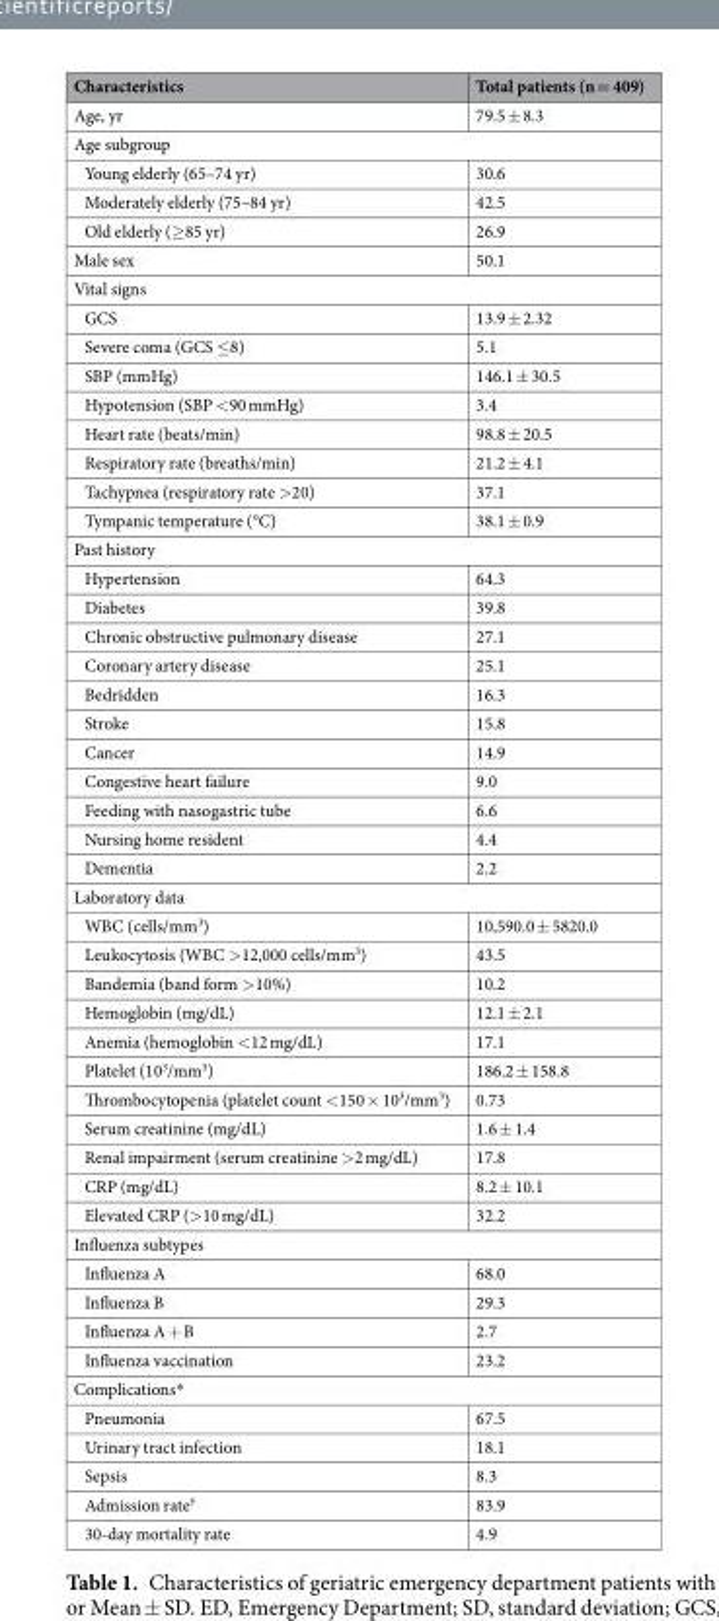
<table><thead><tr><td>Characteristics</td><td>Total patients (n = 409)</td></tr></thead><tbody><tr><td>Age, yr</td><td>79.5 ± 8.3</td></tr><tr><td colspan="2">Age subgroup</td></tr><tr><td>Young elderly (65–74 yr)</td><td>30.6</td></tr><tr><td>Moderately elderly (75–84 yr)</td><td>42.5</td></tr><tr><td>Old elderly (≥85 yr)</td><td>26.9</td></tr><tr><td>Male sex</td><td>50.1</td></tr><tr><td colspan="2">Vital signs</td></tr><tr><td>GCS</td><td>13.9 ± 2.32</td></tr><tr><td>Severe coma (GCS ≤8)</td><td>5.1</td></tr><tr><td>SBP (mmHg)</td><td>146.1 ± 30.5</td></tr><tr><td>Hypotension (SBP &lt;90 mmHg)</td><td>3.4</td></tr><tr><td>Heart rate (beats/min)</td><td>98.8 ± 20.5</td></tr><tr><td>Respiratory rate (breaths/min)</td><td>21.2 ± 4.1</td></tr><tr><td>Tachypnea (respiratory rate &gt;20)</td><td>37.1</td></tr><tr><td>Tympanic temperature (°C)</td><td>38.1 ± 0.9</td></tr><tr><td colspan="2">Past history</td></tr><tr><td>Hypertension</td><td>64.3</td></tr><tr><td>Diabetes</td><td>39.8</td></tr><tr><td>Chronic obstructive pulmonary disease</td><td>27.1</td></tr><tr><td>Coronary artery disease</td><td>25.1</td></tr><tr><td>Bedridden</td><td>16.3</td></tr><tr><td>Stroke</td><td>15.8</td></tr><tr><td>Cancer</td><td>14.9</td></tr><tr><td>Congestive heart failure</td><td>9.0</td></tr><tr><td>Feeding with nasogastric tube</td><td>6.6</td></tr><tr><td>Nursing home resident</td><td>4.4</td></tr><tr><td>Dementia</td><td>2.2</td></tr><tr><td colspan="2">Laboratory data</td></tr><tr><td>WBC (cells/mm<sup>3</sup>)</td><td>10,590.0 ± 5820.0</td></tr><tr><td>Leukocytosis (WBC &gt;12,000 cells/mm<sup>3</sup>)</td><td>43.5</td></tr><tr><td>Bandemia (band form &gt;10%)</td><td>10.2</td></tr><tr><td>Hemoglobin (mg/dL)</td><td>12.1 ± 2.1</td></tr><tr><td>Anemia (hemoglobin &lt;12 mg/dL)</td><td>17.1</td></tr><tr><td>Platelet (10<sup>3</sup>/mm<sup>3</sup>)</td><td>186.2 ± 158.8</td></tr><tr><td>Thrombocytopenia (platelet count &lt;150 × 10<sup>3</sup>/mm<sup>3</sup>)</td><td>0.73</td></tr><tr><td>Serum creatinine (mg/dL)</td><td>1.6 ± 1.4</td></tr><tr><td>Renal impairment (serum creatinine &gt;2 mg/dL)</td><td>17.8</td></tr><tr><td>CRP (mg/dL)</td><td>8.2 ± 10.1</td></tr><tr><td>Elevated CRP (&gt;10 mg/dL)</td><td>32.2</td></tr><tr><td colspan="2">Influenza subtypes</td></tr><tr><td>Influenza A</td><td>68.0</td></tr><tr><td>Influenza B</td><td>29.3</td></tr><tr><td>Influenza A + B</td><td>2.7</td></tr><tr><td>Influenza vaccination</td><td>23.2</td></tr><tr><td colspan="2">Complications*</td></tr><tr><td>Pneumonia</td><td>67.5</td></tr><tr><td>Urinary tract infection</td><td>18.1</td></tr><tr><td>Sepsis</td><td>8.3</td></tr><tr><td>Admission rate<sup>†</sup></td><td>83.9</td></tr><tr><td>30-day mortality rate</td><td>4.9</td></tr></tbody></table>